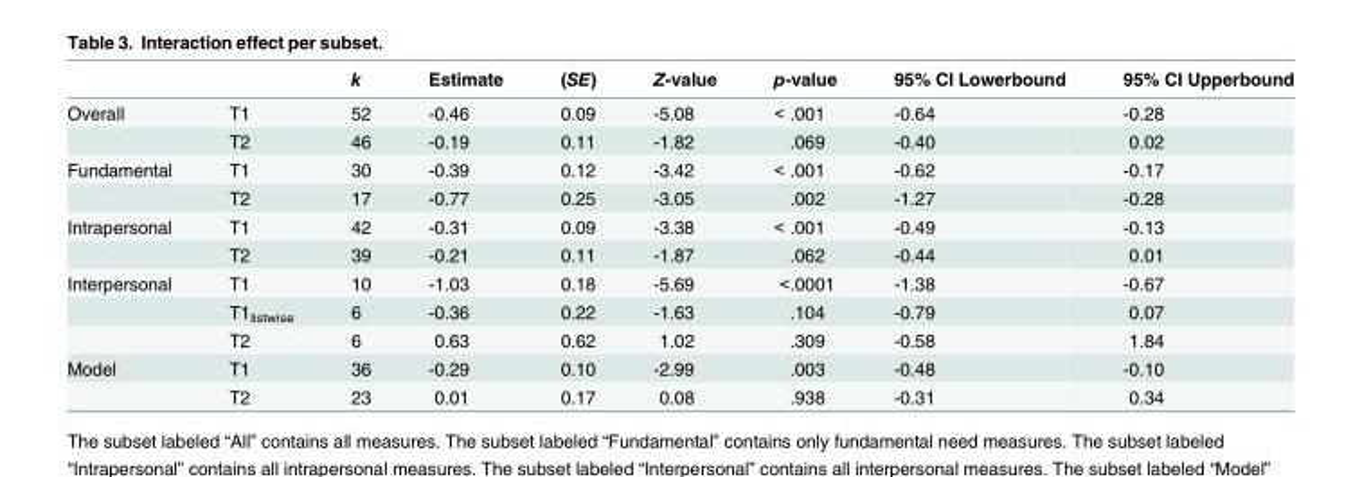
<table><thead><tr><td></td><td></td><td>k</td><td>Estimate</td><td>(SE)</td><td>Z-value</td><td>p-value</td><td>95% CI Lowerbound</td><td>95% CI Upperbound</td></tr></thead><tbody><tr><td rowspan="2">Overall</td><td>T1</td><td>52</td><td>-0.46</td><td>0.09</td><td>-5.08</td><td>&lt; .001</td><td>-0.64</td><td>-0.28</td></tr><tr><td>T2</td><td>46</td><td>-0.19</td><td>0.11</td><td>-1.82</td><td>.069</td><td>-0.40</td><td>0.02</td></tr><tr><td rowspan="2">Fundamental</td><td>T1</td><td>30</td><td>-0.39</td><td>0.12</td><td>-3.42</td><td>&lt; .001</td><td>-0.62</td><td>-0.17</td></tr><tr><td>T2</td><td>17</td><td>-0.77</td><td>0.25</td><td>-3.05</td><td>.002</td><td>-1.27</td><td>-0.28</td></tr><tr><td rowspan="2">Intrapersonal</td><td>T1</td><td>42</td><td>-0.31</td><td>0.09</td><td>-3.38</td><td>&lt; .001</td><td>-0.49</td><td>-0.13</td></tr><tr><td>T2</td><td>39</td><td>-0.21</td><td>0.11</td><td>-1.87</td><td>.062</td><td>-0.44</td><td>0.01</td></tr><tr><td rowspan="3">Interpersonal</td><td>T1</td><td>10</td><td>-1.03</td><td>0.18</td><td>-5.69</td><td>&lt;.0001</td><td>-1.38</td><td>-0.67</td></tr><tr><td>T1<sub>listwise</sub></td><td>6</td><td>-0.36</td><td>0.22</td><td>-1.63</td><td>.104</td><td>-0.79</td><td>0.07</td></tr><tr><td>T2</td><td>6</td><td>0.63</td><td>0.62</td><td>1.02</td><td>.309</td><td>-0.58</td><td>1.84</td></tr><tr><td rowspan="2">Model</td><td>T1</td><td>36</td><td>-0.29</td><td>0.10</td><td>-2.99</td><td>.003</td><td>-0.48</td><td>-0.10</td></tr><tr><td>T2</td><td>23</td><td>0.01</td><td>0.17</td><td>0.08</td><td>.938</td><td>-0.31</td><td>0.34</td></tr></tbody></table>